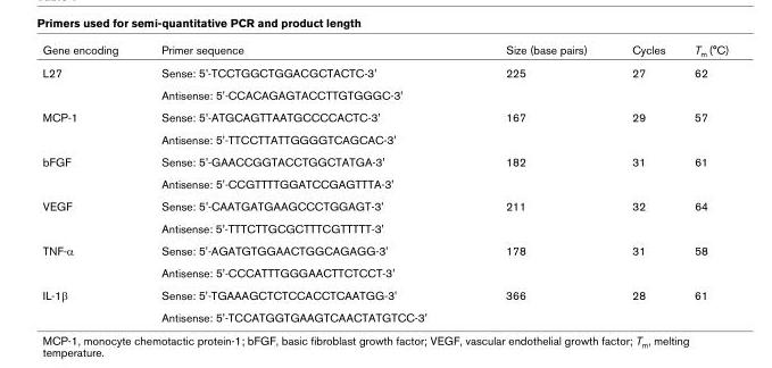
<table><thead><tr><td>Gene encoding</td><td>Primer sequence</td><td>Size (base pairs)</td><td>Cycles</td><td>T<sub>m</sub> (°C)</td></tr></thead><tbody><tr><td rowspan="2">L27</td><td>Sense: 5&#x27;-TCCTGGCTGGACGCTACTC-3&#x27;</td><td>225</td><td>27</td><td>62</td></tr><tr><td>Antisense: 5&#x27;-CCACAGAGTACCTTGTGGGC-3&#x27;</td><td></td><td></td><td></td></tr><tr><td rowspan="2">MCP-1</td><td>Sense: 5&#x27;-ATGCAGTTAATGCCCCACTC-3&#x27;</td><td>167</td><td>29</td><td>57</td></tr><tr><td>Antisense: 5&#x27;-TTCCTTATTGGGGTCAGCAC-3&#x27;</td><td></td><td></td><td></td></tr><tr><td rowspan="2">bFGF</td><td>Sense: 5&#x27;-GAACCGGTACCTGGCTATGA-3&#x27;</td><td>182</td><td>31</td><td>61</td></tr><tr><td>Antisense: 5&#x27;-CCGTTTTGGATCCGAGTTTA-3&#x27;</td><td></td><td></td><td></td></tr><tr><td rowspan="2">VEGF</td><td>Sense: 5&#x27;-CAATGATGAAGCCCTGGAGT-3&#x27;</td><td>211</td><td>32</td><td>64</td></tr><tr><td>Antisense: 5&#x27;-TTTCTTGCGCTTTCGTTTTT-3&#x27;</td><td></td><td></td><td></td></tr><tr><td rowspan="2">TNF-α</td><td>Sense: 5&#x27;-AGATGTGGAACTGGCAGAGG-3&#x27;</td><td>178</td><td>31</td><td>58</td></tr><tr><td>Antisense: 5&#x27;-CCCATTTGGGAACTTCTCCT-3&#x27;</td><td></td><td></td><td></td></tr><tr><td rowspan="2">IL-1β</td><td>Sense: 5&#x27;-TGAAAGCTCTCCACCTCAATGG-3&#x27;</td><td>366</td><td>28</td><td>61</td></tr><tr><td>Antisense: 5&#x27;-TCCATGGTGAAGTCAACTATGTCC-3&#x27;</td><td></td><td></td><td></td></tr></tbody></table>